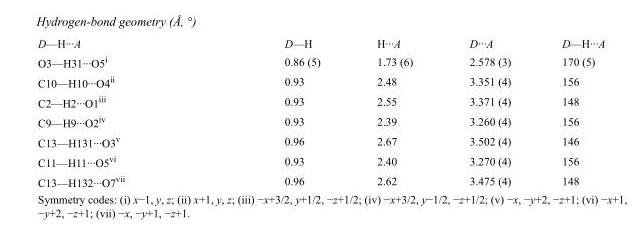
<table><tbody><tr><td>D—H···A</td><td>D—H</td><td>H···A</td><td>D···A</td><td>D—H···A</td></tr><tr><td>O3—H31···O5<sup>i</sup></td><td>0.86 (5)</td><td>1.73 (6)</td><td>2.578 (3)</td><td>170 (5)</td></tr><tr><td>C10—H10···O4<sup>ii</sup></td><td>0.93</td><td>2.48</td><td>3.351 (4)</td><td>156</td></tr><tr><td>C2—H2···O1<sup>iii</sup></td><td>0.93</td><td>2.55</td><td>3.371 (4)</td><td>148</td></tr><tr><td>C9—H9···O2<sup>iv</sup></td><td>0.93</td><td>2.39</td><td>3.260 (4)</td><td>156</td></tr><tr><td>C13—H131···O3<sup>v</sup></td><td>0.96</td><td>2.67</td><td>3.502 (4)</td><td>146</td></tr><tr><td>C11—H11···O5<sup>vi</sup></td><td>0.93</td><td>2.40</td><td>3.270 (4)</td><td>156</td></tr><tr><td>C13—H132···O7<sup>vii</sup></td><td>0.96</td><td>2.62</td><td>3.475 (4)</td><td>148</td></tr></tbody></table>